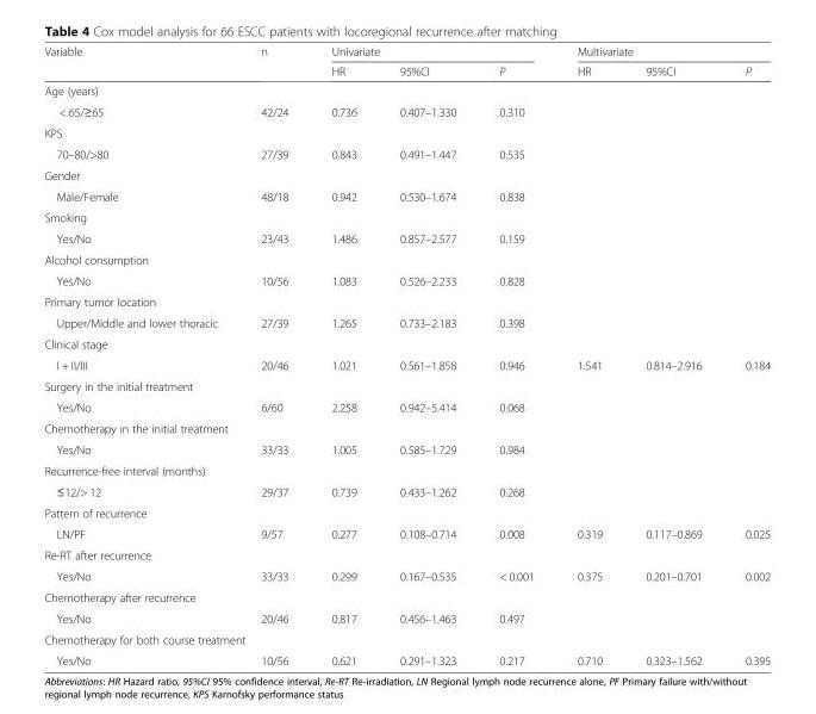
<table><thead><tr><td rowspan="2">Variable</td><td rowspan="2">n</td><td colspan="3">Univariate</td><td colspan="3">Multivariate</td></tr><tr><td>HR</td><td>95%CI</td><td>P</td><td>HR</td><td>95%CI</td><td>P</td></tr></thead><tbody><tr><td colspan="8">Age (years)</td></tr><tr><td>&lt; 65/≥65</td><td>42/24</td><td>0.736</td><td>0.407–1.330</td><td>0.310</td><td></td><td></td><td></td></tr><tr><td colspan="8">KPS</td></tr><tr><td>70–80/&gt;80</td><td>27/39</td><td>0.843</td><td>0.491–1.447</td><td>0.535</td><td></td><td></td><td></td></tr><tr><td colspan="8">Gender</td></tr><tr><td>Male/Female</td><td>48/18</td><td>0.942</td><td>0.530–1.674</td><td>0.838</td><td></td><td></td><td></td></tr><tr><td colspan="8">Smoking</td></tr><tr><td>Yes/No</td><td>23/43</td><td>1.486</td><td>0.857–2.577</td><td>0.159</td><td></td><td></td><td></td></tr><tr><td colspan="8">Alcohol consumption</td></tr><tr><td>Yes/No</td><td>10/56</td><td>1.083</td><td>0.526–2.233</td><td>0.828</td><td></td><td></td><td></td></tr><tr><td colspan="8">Primary tumor location</td></tr><tr><td>Upper/Middle and lower thoracic</td><td>27/39</td><td>1.265</td><td>0.733–2.183</td><td>0.398</td><td></td><td></td><td></td></tr><tr><td colspan="8">Clinical stage</td></tr><tr><td>I + II/III</td><td>20/46</td><td>1.021</td><td>0.561–1.858</td><td>0.946</td><td>1.541</td><td>0.814–2.916</td><td>0.184</td></tr><tr><td colspan="8">Surgery in the initial treatment</td></tr><tr><td>Yes/No</td><td>6/60</td><td>2.258</td><td>0.942–5.414</td><td>0.068</td><td></td><td></td><td></td></tr><tr><td colspan="8">Chemotherapy in the initial treatment</td></tr><tr><td>Yes/No</td><td>33/33</td><td>1.005</td><td>0.585–1.729</td><td>0.984</td><td></td><td></td><td></td></tr><tr><td colspan="8">Recurrence-free interval (months)</td></tr><tr><td>≤12/&gt; 12</td><td>29/37</td><td>0.739</td><td>0.433–1.262</td><td>0.268</td><td></td><td></td><td></td></tr><tr><td colspan="8">Pattern of recurrence</td></tr><tr><td>LN/PF</td><td>9/57</td><td>0.277</td><td>0.108–0.714</td><td>0.008</td><td>0.319</td><td>0.117–0.869</td><td>0.025</td></tr><tr><td colspan="8">Re-RT after recurrence</td></tr><tr><td>Yes/No</td><td>33/33</td><td>0.299</td><td>0.167–0.535</td><td>&lt; 0.001</td><td>0.375</td><td>0.201–0.701</td><td>0.002</td></tr><tr><td colspan="8">Chemotherapy after recurrence</td></tr><tr><td>Yes/No</td><td>20/46</td><td>0.817</td><td>0.456–1.463</td><td>0.497</td><td></td><td></td><td></td></tr><tr><td colspan="8">Chemotherapy for both course treatment</td></tr><tr><td>Yes/No</td><td>10/56</td><td>0.621</td><td>0.291–1.323</td><td>0.217</td><td>0.710</td><td>0.323–1.562</td><td>0.395</td></tr></tbody></table>